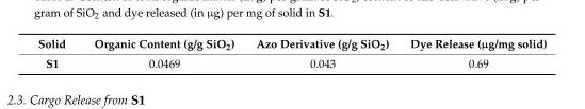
<table><thead><tr><td>Solid</td><td>Organic Content (g/g SiO2)</td><td>Azo Derivative (g/g SiO2)</td><td>Dye Release (µg/mg solid)</td></tr></thead><tbody><tr><td>S1</td><td>0.0469</td><td>0.043</td><td>0.69</td></tr></tbody></table>